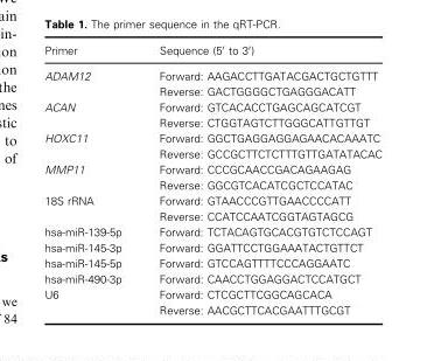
<table><thead><tr><td>Primer</td><td>Sequence (5′ to 3′)</td></tr></thead><tbody><tr><td rowspan="2">ADAM12</td><td>Forward: AAGACCTTGATACGACTGCTGTTT</td></tr><tr><td>Reverse: GACTGGGGCTGAGGGACATT</td></tr><tr><td rowspan="2">ACAN</td><td>Forward: GTCACACCTGAGCAGCATCGT</td></tr><tr><td>Reverse: CTGGTAGTCTTGGGCATTGTTGT</td></tr><tr><td rowspan="2">HOXC11</td><td>Forward: GGCTGAGGAGGAGAACACAAATC</td></tr><tr><td>Reverse: GCCGCTTCTCTTTGTTGATATACAC</td></tr><tr><td rowspan="2">MMP11</td><td>Forward: CCCGCAACCGACAGAAGAG</td></tr><tr><td>Reverse: GGCGTCACATCGCTCCATAC</td></tr><tr><td rowspan="2">18S rRNA</td><td>Forward: GTAACCCGTTGAACCCCATT</td></tr><tr><td>Reverse: CCATCCAATCGGTAGTAGCG</td></tr><tr><td>hsa-miR-139-5p</td><td>Forward: TCTACAGTGCACGTGTCTCCAGT</td></tr><tr><td>hsa-miR-145-3p</td><td>Forward: GGATTCCTGGAAATACTGTTCT</td></tr><tr><td>hsa-miR-145-5p</td><td>Forward: GTCCAGTTTTCCCAGGAATC</td></tr><tr><td>hsa-miR-490-3p</td><td>Forward: CAACCTGGAGGACTCCATGCT</td></tr><tr><td rowspan="2">U6</td><td>Forward: CTCGCTTCGGCAGCACA</td></tr><tr><td>Reverse: AACGCTTCACGAATTTGCGT</td></tr></tbody></table>